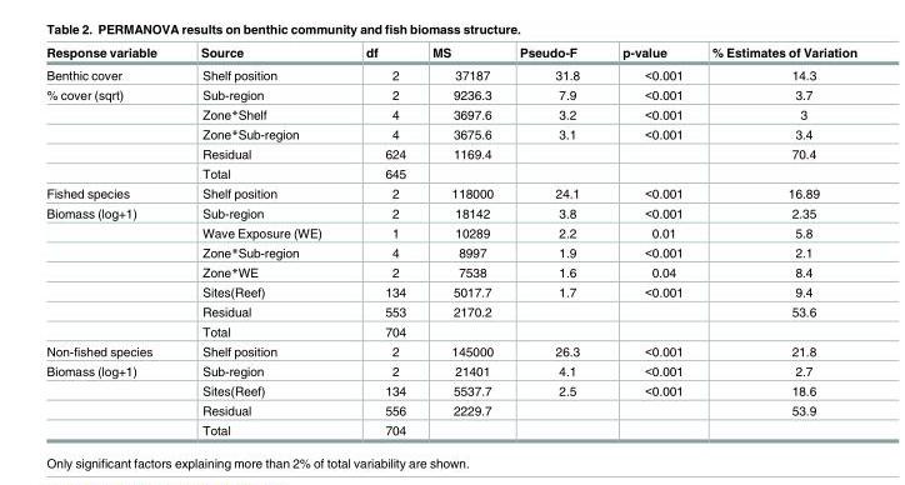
<table><thead><tr><td>Response variable</td><td>Source</td><td>df</td><td>MS</td><td>Pseudo-F</td><td>p-value</td><td>% Estimates of Variation</td></tr></thead><tbody><tr><td>Benthic cover</td><td>Shelf position</td><td>2</td><td>37187</td><td>31.8</td><td>&lt;0.001</td><td>14.3</td></tr><tr><td rowspan="5">% cover (sqrt)</td><td>Sub-region</td><td>2</td><td>9236.3</td><td>7.9</td><td>&lt;0.001</td><td>3.7</td></tr><tr><td>Zone*Shelf</td><td>4</td><td>3697.6</td><td>3.2</td><td>&lt;0.001</td><td>3</td></tr><tr><td>Zone*Sub-region</td><td>4</td><td>3675.6</td><td>3.1</td><td>&lt;0.001</td><td>3.4</td></tr><tr><td>Residual</td><td>624</td><td>1169.4</td><td></td><td></td><td>70.4</td></tr><tr><td>Total</td><td>645</td><td></td><td></td><td></td><td></td></tr><tr><td>Fished species</td><td>Shelf position</td><td>2</td><td>118000</td><td>24.1</td><td>&lt;0.001</td><td>16.89</td></tr><tr><td rowspan="7">Biomass (log+1)</td><td>Sub-region</td><td>2</td><td>18142</td><td>3.8</td><td>&lt;0.001</td><td>2.35</td></tr><tr><td>Wave Exposure (WE)</td><td>1</td><td>10289</td><td>2.2</td><td>0.01</td><td>5.8</td></tr><tr><td>Zone*Sub-region</td><td>4</td><td>8997</td><td>1.9</td><td>&lt;0.001</td><td>2.1</td></tr><tr><td>Zone*WE</td><td>2</td><td>7538</td><td>1.6</td><td>0.04</td><td>8.4</td></tr><tr><td>Sites(Reef)</td><td>134</td><td>5017.7</td><td>1.7</td><td>&lt;0.001</td><td>9.4</td></tr><tr><td>Residual</td><td>553</td><td>2170.2</td><td></td><td></td><td>53.6</td></tr><tr><td>Total</td><td>704</td><td></td><td></td><td></td><td></td></tr><tr><td>Non-fished species</td><td>Shelf position</td><td>2</td><td>145000</td><td>26.3</td><td>&lt;0.001</td><td>21.8</td></tr><tr><td rowspan="4">Biomass (log+1)</td><td>Sub-region</td><td>2</td><td>21401</td><td>4.1</td><td>&lt;0.001</td><td>2.7</td></tr><tr><td>Sites(Reef)</td><td>134</td><td>5537.7</td><td>2.5</td><td>&lt;0.001</td><td>18.6</td></tr><tr><td>Residual</td><td>556</td><td>2229.7</td><td></td><td></td><td>53.9</td></tr><tr><td>Total</td><td>704</td><td></td><td></td><td></td><td></td></tr></tbody></table>